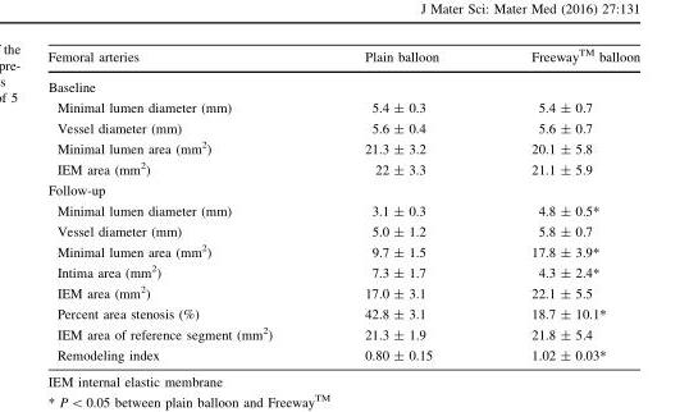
<table><thead><tr><td>Femoral arteries</td><td>Plain balloon</td><td>FreewayTM balloon</td></tr></thead><tbody><tr><td colspan="3">Baseline</td></tr><tr><td>Minimal lumen diameter (mm)</td><td>5.4 ± 0.3</td><td>5.4 ± 0.7</td></tr><tr><td>Vessel diameter (mm)</td><td>5.6 ± 0.4</td><td>5.6 ± 0.7</td></tr><tr><td>Minimal lumen area (mm<sup>2</sup>)</td><td>21.3 ± 3.2</td><td>20.1 ± 5.8</td></tr><tr><td>IEM area (mm<sup>2</sup>)</td><td>22 ± 3.3</td><td>21.1 ± 5.9</td></tr><tr><td colspan="3">Follow-up</td></tr><tr><td>Minimal lumen diameter (mm)</td><td>3.1 ± 0.3</td><td>4.8 ± 0.5*</td></tr><tr><td>Vessel diameter (mm)</td><td>5.0 ± 1.2</td><td>5.8 ± 0.7</td></tr><tr><td>Minimal lumen area (mm<sup>2</sup>)</td><td>9.7 ± 1.5</td><td>17.8 ± 3.9*</td></tr><tr><td>Intima area (mm<sup>2</sup>)</td><td>7.3 ± 1.7</td><td>4.3 ± 2.4*</td></tr><tr><td>IEM area (mm<sup>2</sup>)</td><td>17.0 ± 3.1</td><td>22.1 ± 5.5</td></tr><tr><td>Percent area stenosis (%)</td><td>42.8 ± 3.1</td><td>18.7 ± 10.1*</td></tr><tr><td>IEM area of reference segment (mm<sup>2</sup>)</td><td>21.3 ± 1.9</td><td>21.8 ± 5.4</td></tr><tr><td>Remodeling index</td><td>0.80 ± 0.15</td><td>1.02 ± 0.03*</td></tr></tbody></table>